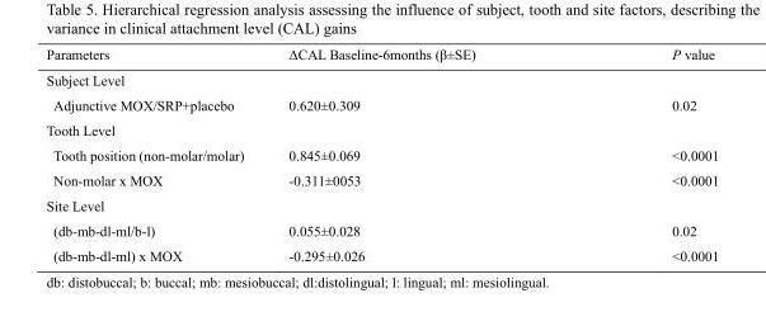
<table><thead><tr><td>Parameters</td><td>ΔCAL Baseline-6months (β±SE)</td><td>P value</td></tr></thead><tbody><tr><td colspan="3">Subject Level</td></tr><tr><td>Adjunctive MOX/SRP+placebo</td><td>0.620±0.309</td><td>0.02</td></tr><tr><td colspan="3">Tooth Level</td></tr><tr><td>Tooth position (non-molar/molar)</td><td>0.845±0.069</td><td>&lt;0.0001</td></tr><tr><td>Non-molar x MOX</td><td>-0.311±0053</td><td>&lt;0.0001</td></tr><tr><td colspan="3">Site Level</td></tr><tr><td>(db-mb-dl-ml/b-l)</td><td>0.055±0.028</td><td>0.02</td></tr><tr><td>(db-mb-dl-ml) x MOX</td><td>-0.295±0.026</td><td>&lt;0.0001</td></tr></tbody></table>